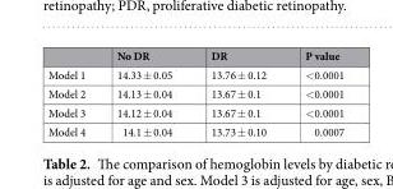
<table><thead><tr><td></td><td>No DR</td><td>DR</td><td>P value</td></tr></thead><tbody><tr><td>Model 1</td><td>14.33 ± 0.05</td><td>13.76 ± 0.12</td><td>&lt;0.0001</td></tr><tr><td>Model 2</td><td>14.13 ± 0.04</td><td>13.67 ± 0.1</td><td>&lt;0.0001</td></tr><tr><td>Model 3</td><td>14.12 ± 0.04</td><td>13.67 ± 0.1</td><td>&lt;0.0001</td></tr><tr><td>Model 4</td><td>14.1 ± 0.04</td><td>13.73 ± 0.10</td><td>0.0007</td></tr></tbody></table>